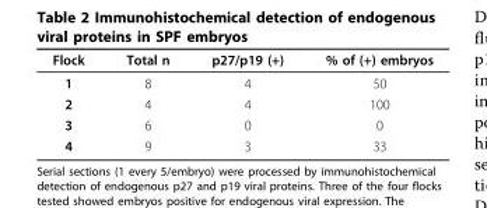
<table><thead><tr><td>Flock</td><td>Total n</td><td>p27/p19 (+)</td><td>% of (+) embryos</td></tr></thead><tbody><tr><td>1</td><td>8</td><td>4</td><td>50</td></tr><tr><td>2</td><td>4</td><td>4</td><td>100</td></tr><tr><td>3</td><td>6</td><td>0</td><td>0</td></tr><tr><td>4</td><td>9</td><td>3</td><td>33</td></tr></tbody></table>